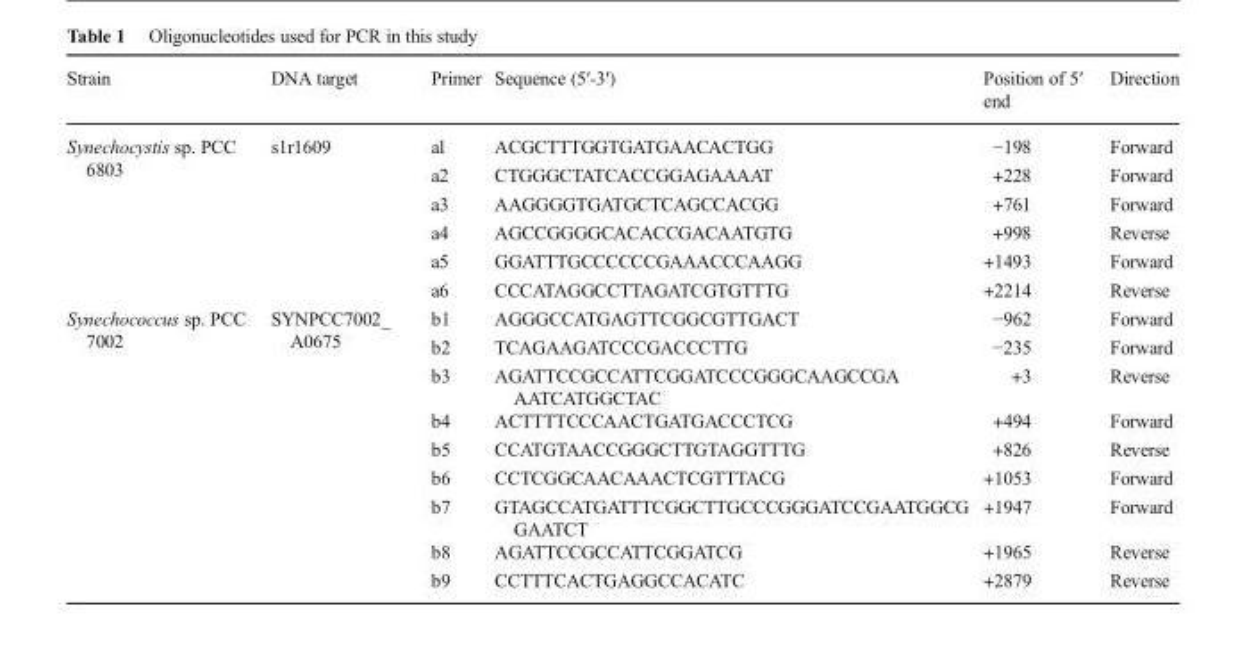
<table><thead><tr><td>Strain</td><td>DNA target</td><td>Primer</td><td>Sequence (5′-3′)</td><td>Position of 5′ end</td><td>Direction</td></tr></thead><tbody><tr><td rowspan="6">Synechocystis sp. PCC 6803</td><td rowspan="6">s1r1609</td><td>al</td><td>ACGCTTTGGTGATGAACACTGG</td><td>−198</td><td>Forward</td></tr><tr><td>a2</td><td>CTGGGCTATCACCGGAGAAAAT</td><td>+228</td><td>Forward</td></tr><tr><td>a3</td><td>AAGGGGTGATGCTCAGCCACGG</td><td>+761</td><td>Forward</td></tr><tr><td>a4</td><td>AGCCGGGGCACACCGACAATGTG</td><td>+998</td><td>Reverse</td></tr><tr><td>a5</td><td>GGATTTGCCCCCCGAAACCCAAGG</td><td>+1493</td><td>Forward</td></tr><tr><td>a6</td><td>CCCATAGGCCTTAGATCGTGTTTG</td><td>+2214</td><td>Reverse</td></tr><tr><td rowspan="9">Synechococcus sp. PCC 7002</td><td rowspan="9">SYNPCC7002_ A0675</td><td>b1</td><td>AGGGCCATGAGTTCGGCGTTGACT</td><td>−962</td><td>Forward</td></tr><tr><td>b2</td><td>TCAGAAGATCCCGACCCTTG</td><td>−235</td><td>Forward</td></tr><tr><td>b3</td><td>AGATTCCGCCATTCGGATCCCGGGCAAGCCGA AATCATGGCTAC</td><td>+3</td><td>Reverse</td></tr><tr><td>b4</td><td>ACTTTTCCCAACTGATGACCCTCG</td><td>+494</td><td>Forward</td></tr><tr><td>b5</td><td>CCATGTAACCGGGCTTGTAGGTTTG</td><td>+826</td><td>Reverse</td></tr><tr><td>b6</td><td>CCTCGGCAACAAACTCGTTTACG</td><td>+1053</td><td>Forward</td></tr><tr><td>b7</td><td>GTAGCCATGATTTCGGCTTGCCCGGGATCCGAATGGCG GAATCT</td><td>+1947</td><td>Forward</td></tr><tr><td>b8</td><td>AGATTCCGCCATTCGGATCG</td><td>+1965</td><td>Reverse</td></tr><tr><td>b9</td><td>CCTTTCACTGAGGCCACATC</td><td>+2879</td><td>Reverse</td></tr></tbody></table>